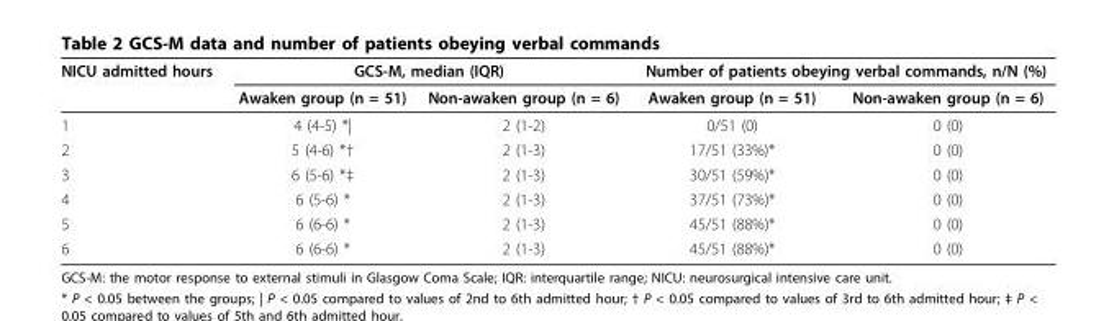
<table><thead><tr><td rowspan="2">NICU admitted hours</td><td colspan="2">GCS-M, median (IQR)</td><td colspan="2">Number of patients obeying verbal commands, n/N (%)</td></tr><tr><td>Awaken group (n = 51)</td><td>Non-awaken group (n = 6)</td><td>Awaken group (n = 51)</td><td>Non-awaken group (n = 6)</td></tr></thead><tbody><tr><td>1</td><td>4 (4-5) *|</td><td>2 (1-2)</td><td>0/51 (0)</td><td>0 (0)</td></tr><tr><td>2</td><td>5 (4-6) *†</td><td>2 (1-3)</td><td>17/51 (33%)*</td><td>0 (0)</td></tr><tr><td>3</td><td>6 (5-6) *‡</td><td>2 (1-3)</td><td>30/51 (59%)*</td><td>0 (0)</td></tr><tr><td>4</td><td>6 (5-6) *</td><td>2 (1-3)</td><td>37/51 (73%)*</td><td>0 (0)</td></tr><tr><td>5</td><td>6 (6-6) *</td><td>2 (1-3)</td><td>45/51 (88%)*</td><td>0 (0)</td></tr><tr><td>6</td><td>6 (6-6) *</td><td>2 (1-3)</td><td>45/51 (88%)*</td><td>0 (0)</td></tr></tbody></table>